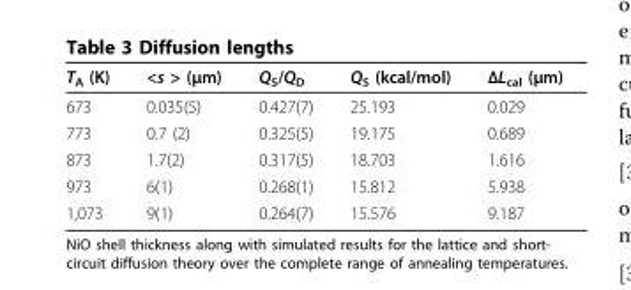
<table><thead><tr><td>T<sub>A</sub> (K)</td><td>&lt;s &gt; (μm)</td><td>Q<sub>S</sub>/Q<sub>D</sub></td><td>Q<sub>S</sub> (kcal/mol)</td><td>ΔL<sub>cal</sub> (μm)</td></tr></thead><tbody><tr><td>673</td><td>0.035(5)</td><td>0.427(7)</td><td>25.193</td><td>0.029</td></tr><tr><td>773</td><td>0.7 (2)</td><td>0.325(5)</td><td>19.175</td><td>0.689</td></tr><tr><td>873</td><td>1.7(2)</td><td>0.317(5)</td><td>18.703</td><td>1.616</td></tr><tr><td>973</td><td>6(1)</td><td>0.268(1)</td><td>15.812</td><td>5.938</td></tr><tr><td>1,073</td><td>9(1)</td><td>0.264(7)</td><td>15.576</td><td>9.187</td></tr></tbody></table>